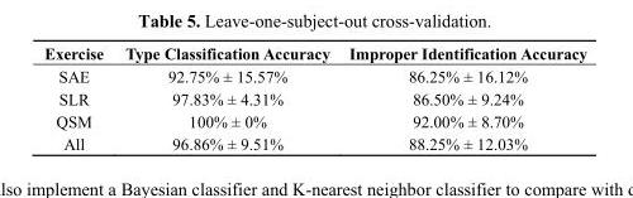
<table><thead><tr><td>Exercise</td><td>Type Classification Accuracy</td><td>Improper Identification Accuracy</td></tr></thead><tbody><tr><td>SAE</td><td>92.75% ± 15.57%</td><td>86.25% ± 16.12%</td></tr><tr><td>SLR</td><td>97.83% ± 4.31%</td><td>86.50% ± 9.24%</td></tr><tr><td>QSM</td><td>100% ± 0%</td><td>92.00% ± 8.70%</td></tr><tr><td>All</td><td>96.86% ± 9.51%</td><td>88.25% ± 12.03%</td></tr></tbody></table>